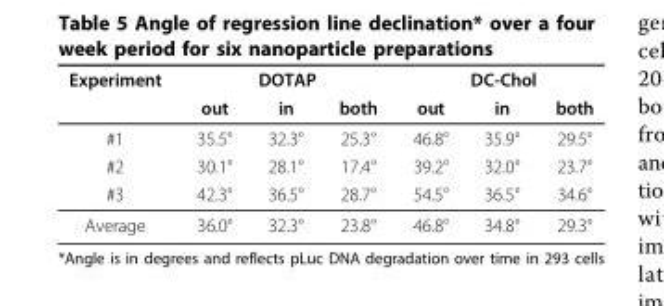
<table><thead><tr><td rowspan="2">Experiment</td><td colspan="3">DOTAP</td><td colspan="3">DC-Chol</td></tr><tr><td>out</td><td>in</td><td>both</td><td>out</td><td>in</td><td>both</td></tr></thead><tbody><tr><td>#1</td><td>35.5°</td><td>32.3°</td><td>25.3°</td><td>46.8°</td><td>35.9°</td><td>29.5°</td></tr><tr><td>#2</td><td>30.1°</td><td>28.1°</td><td>17.4°</td><td>39.2°</td><td>32.0°</td><td>23.7°</td></tr><tr><td>#3</td><td>42.3°</td><td>36.5°</td><td>28.7°</td><td>54.5°</td><td>36.5°</td><td>34.6°</td></tr><tr><td>Average</td><td>36.0°</td><td>32.3°</td><td>23.8°</td><td>46.8°</td><td>34.8°</td><td>29.3°</td></tr></tbody></table>